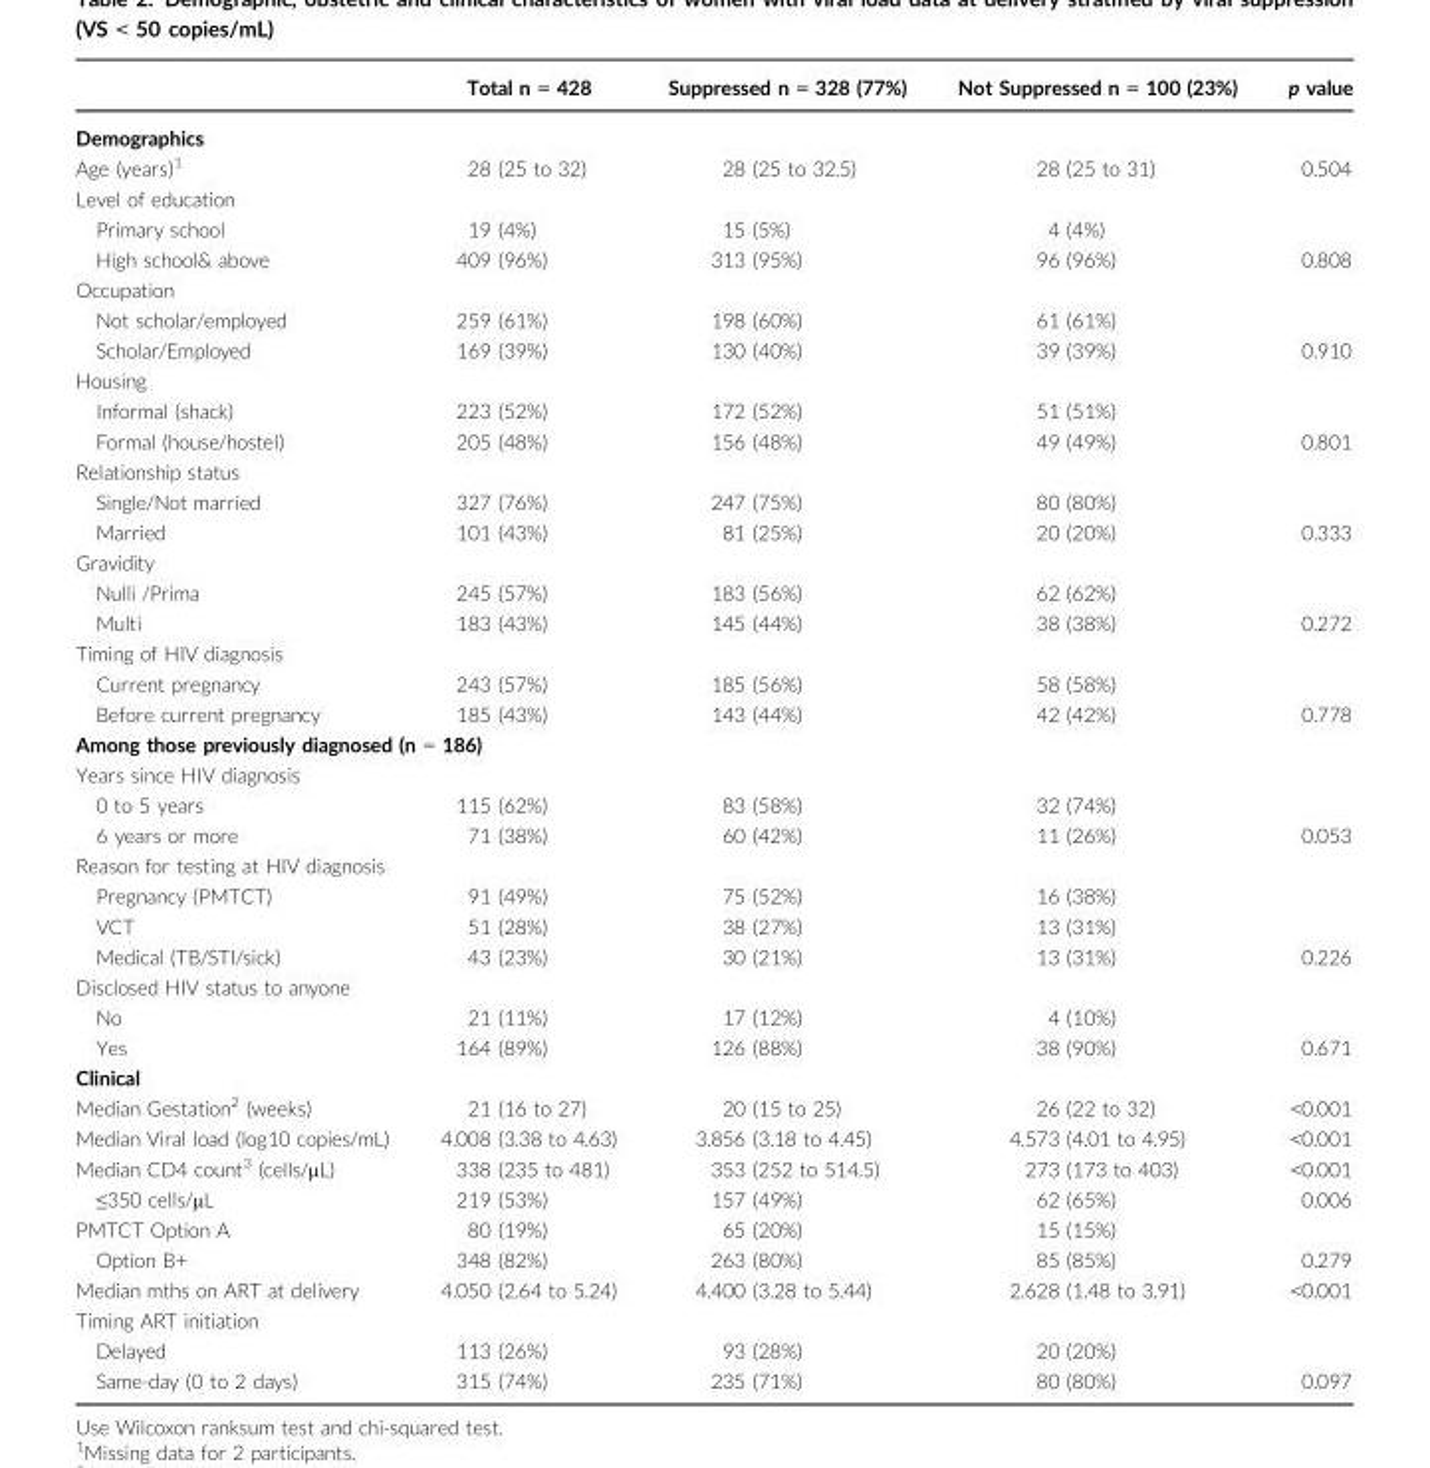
<table><thead><tr><td></td><td>Total n = 428</td><td>Suppressed n = 328 (77%)</td><td>Not Suppressed n = 100 (23%)</td><td>p value</td></tr></thead><tbody><tr><td colspan="5">Demographics</td></tr><tr><td>Age (years)1</td><td>28 (25 to 32)</td><td>28 (25 to 32.5)</td><td>28 (25 to 31)</td><td>0.504</td></tr><tr><td colspan="5">Level of education</td></tr><tr><td>Primary school</td><td>19 (4%)</td><td>15 (5%)</td><td>4 (4%)</td><td></td></tr><tr><td>High school&amp; above</td><td>409 (96%)</td><td>313 (95%)</td><td>96 (96%)</td><td>0.808</td></tr><tr><td colspan="5">Occupation</td></tr><tr><td>Not scholar/employed</td><td>259 (61%)</td><td>198 (60%)</td><td>61 (61%)</td><td></td></tr><tr><td>Scholar/Employed</td><td>169 (39%)</td><td>130 (40%)</td><td>39 (39%)</td><td>0.910</td></tr><tr><td colspan="5">Housing</td></tr><tr><td>Informal (shack)</td><td>223 (52%)</td><td>172 (52%)</td><td>51 (51%)</td><td></td></tr><tr><td>Formal (house/hostel)</td><td>205 (48%)</td><td>156 (48%)</td><td>49 (49%)</td><td>0.801</td></tr><tr><td colspan="5">Relationship status</td></tr><tr><td>Single/Not married</td><td>327 (76%)</td><td>247 (75%)</td><td>80 (80%)</td><td></td></tr><tr><td>Married</td><td>101 (43%)</td><td>81 (25%)</td><td>20 (20%)</td><td>0.333</td></tr><tr><td colspan="5">Gravidity</td></tr><tr><td>Nulli /Prima</td><td>245 (57%)</td><td>183 (56%)</td><td>62 (62%)</td><td></td></tr><tr><td>Multi</td><td>183 (43%)</td><td>145 (44%)</td><td>38 (38%)</td><td>0.272</td></tr><tr><td colspan="5">Timing of HIV diagnosis</td></tr><tr><td>Current pregnancy</td><td>243 (57%)</td><td>185 (56%)</td><td>58 (58%)</td><td></td></tr><tr><td>Before current pregnancy</td><td>185 (43%)</td><td>143 (44%)</td><td>42 (42%)</td><td>0.778</td></tr><tr><td colspan="5">Among those previously diagnosed (n = 186)</td></tr><tr><td colspan="5">Years since HIV diagnosis</td></tr><tr><td>0 to 5 years</td><td>115 (62%)</td><td>83 (58%)</td><td>32 (74%)</td><td></td></tr><tr><td>6 years or more</td><td>71 (38%)</td><td>60 (42%)</td><td>11 (26%)</td><td>0.053</td></tr><tr><td colspan="5">Reason for testing at HIV diagnosis</td></tr><tr><td>Pregnancy (PMTCT)</td><td>91 (49%)</td><td>75 (52%)</td><td>16 (38%)</td><td></td></tr><tr><td>VCT</td><td>51 (28%)</td><td>38 (27%)</td><td>13 (31%)</td><td></td></tr><tr><td>Medical (TB/STI/sick)</td><td>43 (23%)</td><td>30 (21%)</td><td>13 (31%)</td><td>0.226</td></tr><tr><td colspan="5">Disclosed HIV status to anyone</td></tr><tr><td>No</td><td>21 (11%)</td><td>17 (12%)</td><td>4 (10%)</td><td></td></tr><tr><td>Yes</td><td>164 (89%)</td><td>126 (88%)</td><td>38 (90%)</td><td>0.671</td></tr><tr><td colspan="5">Clinical</td></tr><tr><td>Median Gestation2 (weeks)</td><td>21 (16 to 27)</td><td>20 (15 to 25)</td><td>26 (22 to 32)</td><td>&lt;0.001</td></tr><tr><td>Median Viral load (log10 copies/mL)</td><td>4.008 (3.38 to 4.63)</td><td>3.856 (3.18 to 4.45)</td><td>4.573 (4.01 to 4.95)</td><td>&lt;0.001</td></tr><tr><td>Median CD4 count3 (cells/lL)</td><td>338 (235 to 481)</td><td>353 (252 to 514.5)</td><td>273 (173 to 403)</td><td>&lt;0.001</td></tr><tr><td>≤350 cells/μL</td><td>219 (53%)</td><td>157 (49%)</td><td>62 (65%)</td><td>0.006</td></tr><tr><td>PMTCT Option A</td><td>80 (19%)</td><td>65 (20%)</td><td>15 (15%)</td><td></td></tr><tr><td>Option B+</td><td>348 (82%)</td><td>263 (80%)</td><td>85 (85%)</td><td>0.279</td></tr><tr><td>Median mths on ART at delivery</td><td>4.050 (2.64 to 5.24)</td><td>4.400 (3.28 to 5.44)</td><td>2.628 (1.48 to 3.91)</td><td>&lt;0.001</td></tr><tr><td colspan="5">Timing ART initiation</td></tr><tr><td>Delayed</td><td>113 (26%)</td><td>93 (28%)</td><td>20 (20%)</td><td></td></tr><tr><td>Same-day (0 to 2 days)</td><td>315 (74%)</td><td>235 (71%)</td><td>80 (80%)</td><td>0.097</td></tr></tbody></table>